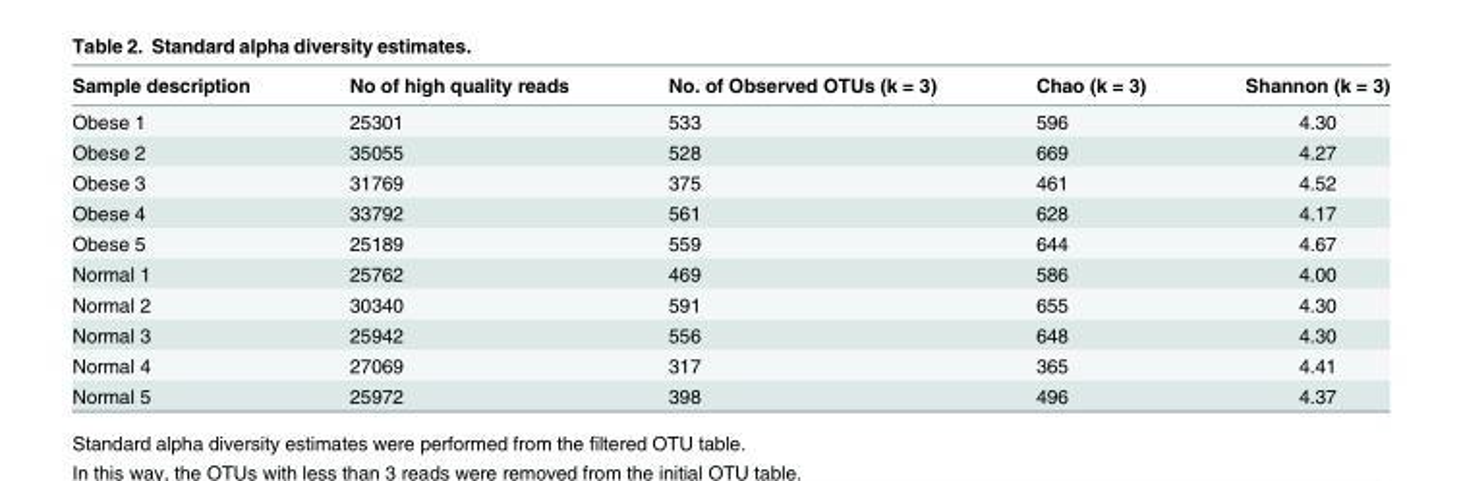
<table><thead><tr><td>Sample description</td><td>No of high quality reads</td><td>No. of Observed OTUs (k = 3)</td><td>Chao (k = 3)</td><td>Shannon (k = 3)</td></tr></thead><tbody><tr><td>Obese 1</td><td>25301</td><td>533</td><td>596</td><td>4.30</td></tr><tr><td>Obese 2</td><td>35055</td><td>528</td><td>669</td><td>4.27</td></tr><tr><td>Obese 3</td><td>31769</td><td>375</td><td>461</td><td>4.52</td></tr><tr><td>Obese 4</td><td>33792</td><td>561</td><td>628</td><td>4.17</td></tr><tr><td>Obese 5</td><td>25189</td><td>559</td><td>644</td><td>4.67</td></tr><tr><td>Normal 1</td><td>25762</td><td>469</td><td>586</td><td>4.00</td></tr><tr><td>Normal 2</td><td>30340</td><td>591</td><td>655</td><td>4.30</td></tr><tr><td>Normal 3</td><td>25942</td><td>556</td><td>648</td><td>4.30</td></tr><tr><td>Normal 4</td><td>27069</td><td>317</td><td>365</td><td>4.41</td></tr><tr><td>Normal 5</td><td>25972</td><td>398</td><td>496</td><td>4.37</td></tr></tbody></table>